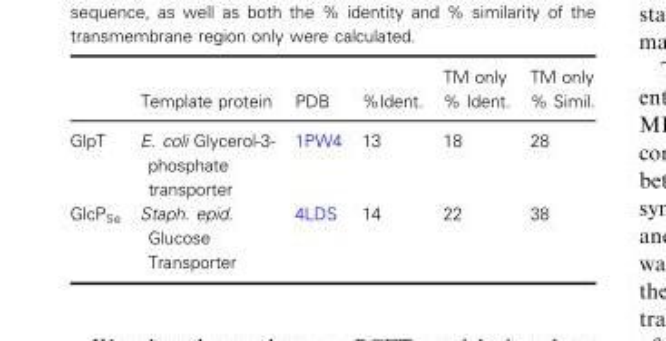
<table><thead><tr><td></td><td>Template protein</td><td>PDB</td><td>%Ident.</td><td>TM only % Ident.</td><td>TM only % Simil.</td></tr></thead><tbody><tr><td>GlpT</td><td>E. coli Glycerol-3- phosphate transporter</td><td>1PW4</td><td>13</td><td>18</td><td>28</td></tr><tr><td>GlcP<sub>Se</sub></td><td>Staph. epid. Glucose Transporter</td><td>4LDS</td><td>14</td><td>22</td><td>38</td></tr></tbody></table>